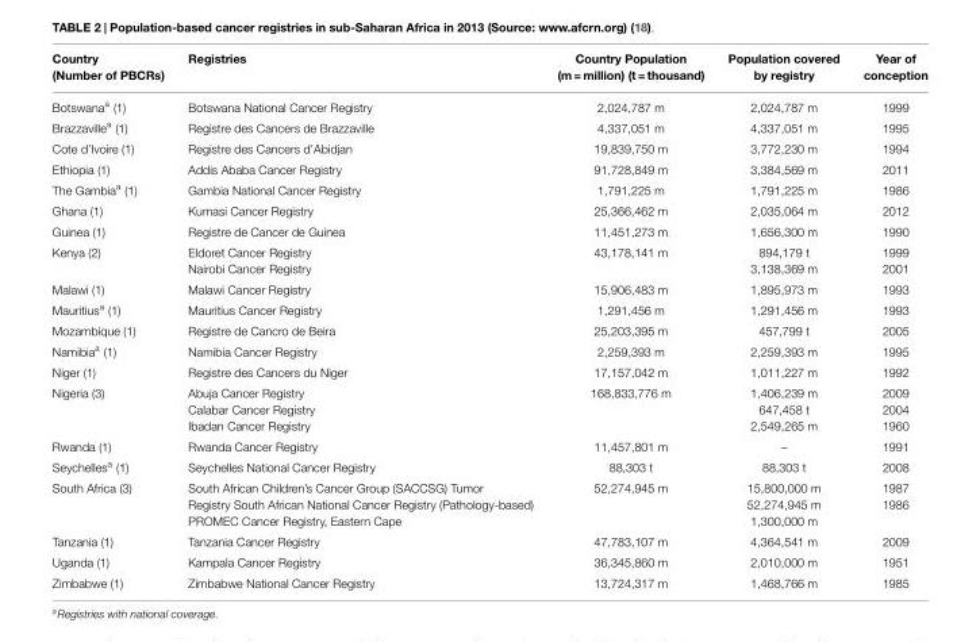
<table><thead><tr><td>Country (Number of PBCRs)</td><td>Registries</td><td>Country Population (m = million) (t = thousand)</td><td>Population covered by registry</td><td>Year of conception</td></tr></thead><tbody><tr><td>Botswana<sup>a</sup> (1)</td><td>Botswana National Cancer Registry</td><td>2,024,787 m</td><td>2,024,787 m</td><td>1999</td></tr><tr><td>Brazzaville<sup>a</sup> (1)</td><td>Registre des Cancers de Brazzaville</td><td>4,337,051 m</td><td>4,337,051 m</td><td>1995</td></tr><tr><td>Cote d’Ivoire (1)</td><td>Registre des Cancers d’Abidjan</td><td>19,839,750 m</td><td>3,772,230 m</td><td>1994</td></tr><tr><td>Ethiopia (1)</td><td>Addis Ababa Cancer Registry</td><td>91,728,849 m</td><td>3,384,569 m</td><td>2011</td></tr><tr><td>The Gambia<sup>a</sup> (1)</td><td>Gambia National Cancer Registry</td><td>1,791,225 m</td><td>1,791,225 m</td><td>1986</td></tr><tr><td>Ghana (1)</td><td>Kumasi Cancer Registry</td><td>25,366,462 m</td><td>2,035,064 m</td><td>2012</td></tr><tr><td>Guinea (1)</td><td>Registre de Cancer de Guinea</td><td>11,451,273 m</td><td>1,656,300 m</td><td>1990</td></tr><tr><td rowspan="2">Kenya (2)</td><td>Eldoret Cancer Registry</td><td>43,178,141 m</td><td>894,179 t</td><td>1999</td></tr><tr><td>Nairobi Cancer Registry</td><td></td><td>3,138,369 m</td><td>2001</td></tr><tr><td>Malawi (1)</td><td>Malawi Cancer Registry</td><td>15,906,483 m</td><td>1,895,973 m</td><td>1993</td></tr><tr><td>Mauritius<sup>a</sup> (1)</td><td>Mauritius Cancer Registry</td><td>1,291,456 m</td><td>1,291,456 m</td><td>1993</td></tr><tr><td>Mozambique (1)</td><td>Registre de Cancro de Beira</td><td>25,203,395 m</td><td>457,799 t</td><td>2005</td></tr><tr><td>Namibia<sup>a</sup> (1)</td><td>Namibia Cancer Registry</td><td>2,259,393 m</td><td>2,259,393 m</td><td>1995</td></tr><tr><td>Niger (1)</td><td>Registre des Cancers du Niger</td><td>17,157,042 m</td><td>1,011,227 m</td><td>1992</td></tr><tr><td rowspan="3">Nigeria (3)</td><td>Abuja Cancer Registry</td><td>168,833,776 m</td><td>1,406,239 m</td><td>2009</td></tr><tr><td>Calabar Cancer Registry</td><td></td><td>647,458 t</td><td>2004</td></tr><tr><td>Ibadan Cancer Registry</td><td></td><td>2,549,265 m</td><td>1960</td></tr><tr><td>Rwanda (1)</td><td>Rwanda Cancer Registry</td><td>11,457,801 m</td><td>–</td><td>1991</td></tr><tr><td>Seychelles<sup>a</sup> (1)</td><td>Seychelles National Cancer Registry</td><td>88,303 t</td><td>88,303 t</td><td>2008</td></tr><tr><td rowspan="3">South Africa (3)</td><td>South African Children’s Cancer Group (SACCSG) Tumor</td><td>52,274,945 m</td><td>15,800,000 m</td><td>1987</td></tr><tr><td>Registry South African National Cancer Registry (Pathology-based)</td><td></td><td>52,274,945 m</td><td>1986</td></tr><tr><td>PROMEC Cancer Registry, Eastern Cape</td><td></td><td>1,300,000 m</td><td></td></tr><tr><td>Tanzania (1)</td><td>Tanzania Cancer Registry</td><td>47,783,107 m</td><td>4,364,541 m</td><td>2009</td></tr><tr><td>Uganda (1)</td><td>Kampala Cancer Registry</td><td>36,345,860 m</td><td>2,010,000 m</td><td>1951</td></tr><tr><td>Zimbabwe (1)</td><td>Zimbabwe National Cancer Registry</td><td>13,724,317 m</td><td>1,468,766 m</td><td>1985</td></tr></tbody></table>